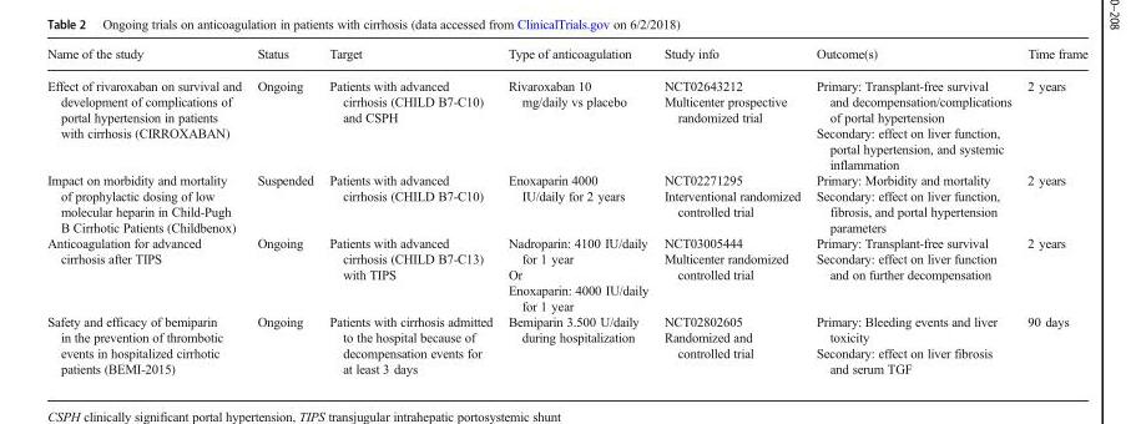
<table><thead><tr><td>Name of the study</td><td>Status</td><td>Target</td><td>Type of anticoagulation</td><td>Study info</td><td>Outcome(s)</td><td>Time frame</td></tr></thead><tbody><tr><td>Effect of rivaroxaban on survival and development of complications of portal hypertension in patients with cirrhosis (CIRROXABAN)</td><td>Ongoing</td><td>Patients with advanced cirrhosis (CHILD B7-C10) and CSPH</td><td>Rivaroxaban 10 mg/daily vs placebo</td><td>NCT02643212 Multicenter prospective randomized trial</td><td>Primary: Transplant-free survival and decompensation/complications of portal hypertension Secondary: effect on liver function, portal hypertension, and systemic inflammation</td><td>2 years</td></tr><tr><td>Impact on morbidity and mortality of prophylactic dosing of low molecular heparin in Child-Pugh B Cirrhotic Patients (Childbenox)</td><td>Suspended</td><td>Patients with advanced cirrhosis (CHILD B7-C10)</td><td>Enoxaparin 4000 IU/daily for 2 years</td><td>NCT02271295 Interventional randomized controlled trial</td><td>Primary: Morbidity and mortality Secondary: effect on liver function, fibrosis, and portal hypertension parameters</td><td>2 years</td></tr><tr><td>Anticoagulation for advanced cirrhosis after TIPS</td><td>Ongoing</td><td>Patients with advanced cirrhosis (CHILD B7-C13) with TIPS</td><td>Nadroparin: 4100 IU/daily for 1 year Or Enoxaparin: 4000 IU/daily for 1 year</td><td>NCT03005444 Multicenter randomized controlled trial</td><td>Primary: Transplant-free survival Secondary: effect on liver function and on further decompensation</td><td>2 years</td></tr><tr><td>Safety and efficacy of bemiparin in the prevention of thrombotic events in hospitalized cirrhotic patients (BEMI-2015)</td><td>Ongoing</td><td>Patients with cirrhosis admitted to the hospital because of decompensation events for at least 3 days</td><td>Bemiparin 3.500 U/daily during hospitalization</td><td>NCT02802605 Randomized and controlled trial</td><td>Primary: Bleeding events and liver toxicity Secondary: effect on liver fibrosis and serum TGF</td><td>90 days</td></tr></tbody></table>